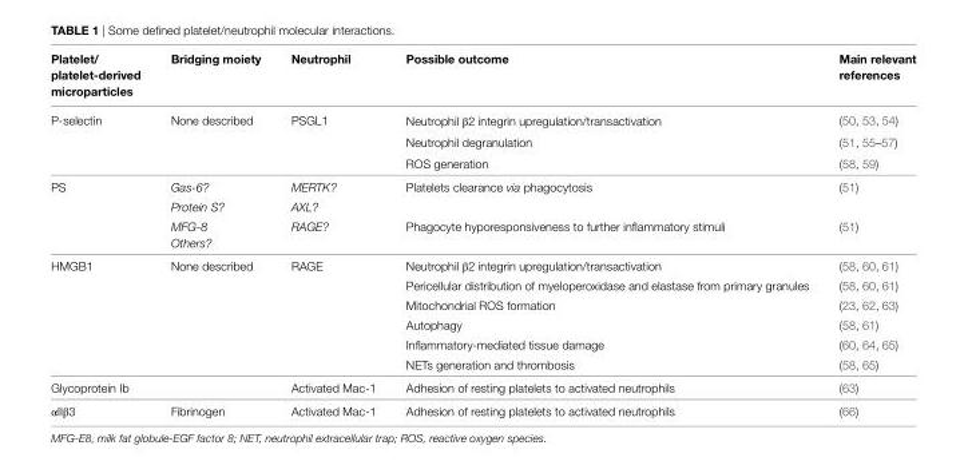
<table><thead><tr><td>Platelet/ platelet-derived microparticles</td><td>Bridging moiety</td><td>Neutrophil</td><td>Possible outcome</td><td>Main relevant references</td></tr></thead><tbody><tr><td rowspan="3">Pselectin</td><td rowspan="3">None described</td><td rowspan="3">PSGL1</td><td>Neutrophil β2 integrin upregulation/transactivation</td><td>(50, 53, 54)</td></tr><tr><td>Neutrophil degranulation</td><td>(51, 55–57)</td></tr><tr><td>ROS generation</td><td>(58, 59)</td></tr><tr><td rowspan="4">PS</td><td>Gas-6?</td><td>MERTK?</td><td rowspan="2">Platelets clearance via phagocytosis</td><td rowspan="2">(51)</td></tr><tr><td>Protein S?</td><td>AXL?</td></tr><tr><td>MFG-8</td><td rowspan="2">RAGE?</td><td rowspan="2">Phagocyte hyporesponsiveness to further inflammatory stimuli</td><td rowspan="2">(51)</td></tr><tr><td>Others?</td></tr><tr><td rowspan="6">HMGB1</td><td rowspan="6">None described</td><td rowspan="6">RAGE</td><td>Neutrophil β2 integrin upregulation/transactivation</td><td>(58, 60, 61)</td></tr><tr><td>Pericellular distribution of myeloperoxidase and elastase from primary granules</td><td>(58, 60, 61)</td></tr><tr><td>Mitochondrial ROS formation</td><td>(23, 62, 63)</td></tr><tr><td>Autophagy</td><td>(58, 61)</td></tr><tr><td>Inflammatorymediated tissue damage</td><td>(60, 64, 65)</td></tr><tr><td>NETs generation and thrombosis</td><td>(58, 65)</td></tr><tr><td>Glycoprotein Ib</td><td></td><td>Activated Mac1</td><td>Adhesion of resting platelets to activated neutrophils</td><td>(63)</td></tr><tr><td>αIIβ3</td><td>Fibrinogen</td><td>Activated Mac1</td><td>Adhesion of resting platelets to activated neutrophils</td><td>(66)</td></tr></tbody></table>